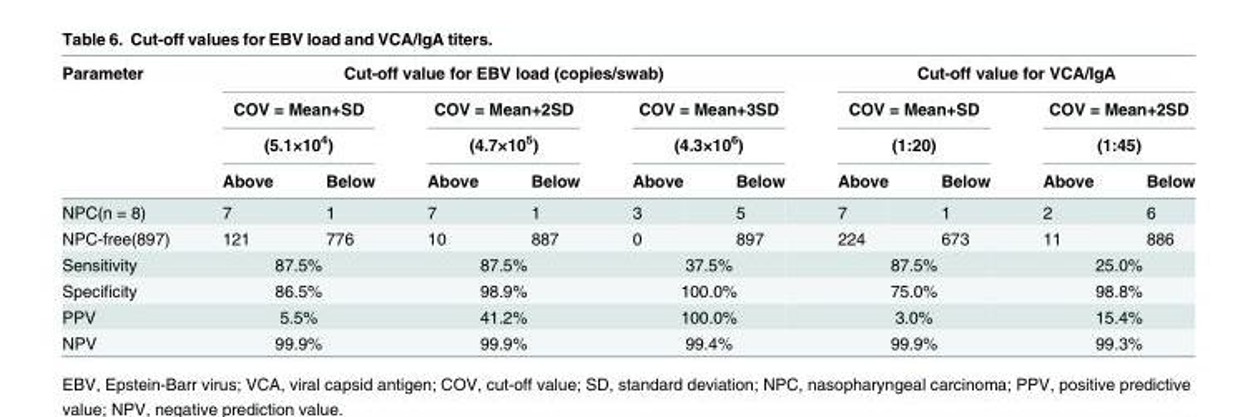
<table><thead><tr><td rowspan="4">Parameter</td><td colspan="6">Cut-off value for EBV load (copies/swab)</td><td colspan="4">Cut-off value for VCA/IgA</td></tr><tr><td rowspan="2" colspan="2">COV = Mean+SD (5.1×10<sup>4</sup>)</td><td rowspan="2" colspan="2">COV = Mean+2SD (4.7×10<sup>5</sup>)</td><td rowspan="2" colspan="2">COV = Mean+3SD (4.3×10<sup>6</sup>)</td><td rowspan="2" colspan="2">COV = Mean+SD (1:20)</td><td rowspan="2" colspan="2">COV = Mean+2SD (1:45)</td></tr><tr></tr><tr><td>Above</td><td>Below</td><td>Above</td><td>Below</td><td>Above</td><td>Below</td><td>Above</td><td>Below</td><td>Above</td><td>Below</td></tr></thead><tbody><tr><td>NPC(n = 8)</td><td>7</td><td>1</td><td>7</td><td>1</td><td>3</td><td>5</td><td>7</td><td>1</td><td>2</td><td>6</td></tr><tr><td>NPC-free(897)</td><td>121</td><td>776</td><td>10</td><td>887</td><td>0</td><td>897</td><td>224</td><td>673</td><td>11</td><td>886</td></tr><tr><td>Sensitivity</td><td colspan="2">87.5%</td><td colspan="2">87.5%</td><td colspan="2">37.5%</td><td colspan="2">87.5%</td><td colspan="2">25.0%</td></tr><tr><td>Specificity</td><td colspan="2">86.5%</td><td colspan="2">98.9%</td><td colspan="2">100.0%</td><td colspan="2">75.0%</td><td colspan="2">98.8%</td></tr><tr><td>PPV</td><td colspan="2">5.5%</td><td colspan="2">41.2%</td><td colspan="2">100.0%</td><td colspan="2">3.0%</td><td colspan="2">15.4%</td></tr><tr><td>NPV</td><td colspan="2">99.9%</td><td colspan="2">99.9%</td><td colspan="2">99.4%</td><td colspan="2">99.9%</td><td colspan="2">99.3%</td></tr></tbody></table>